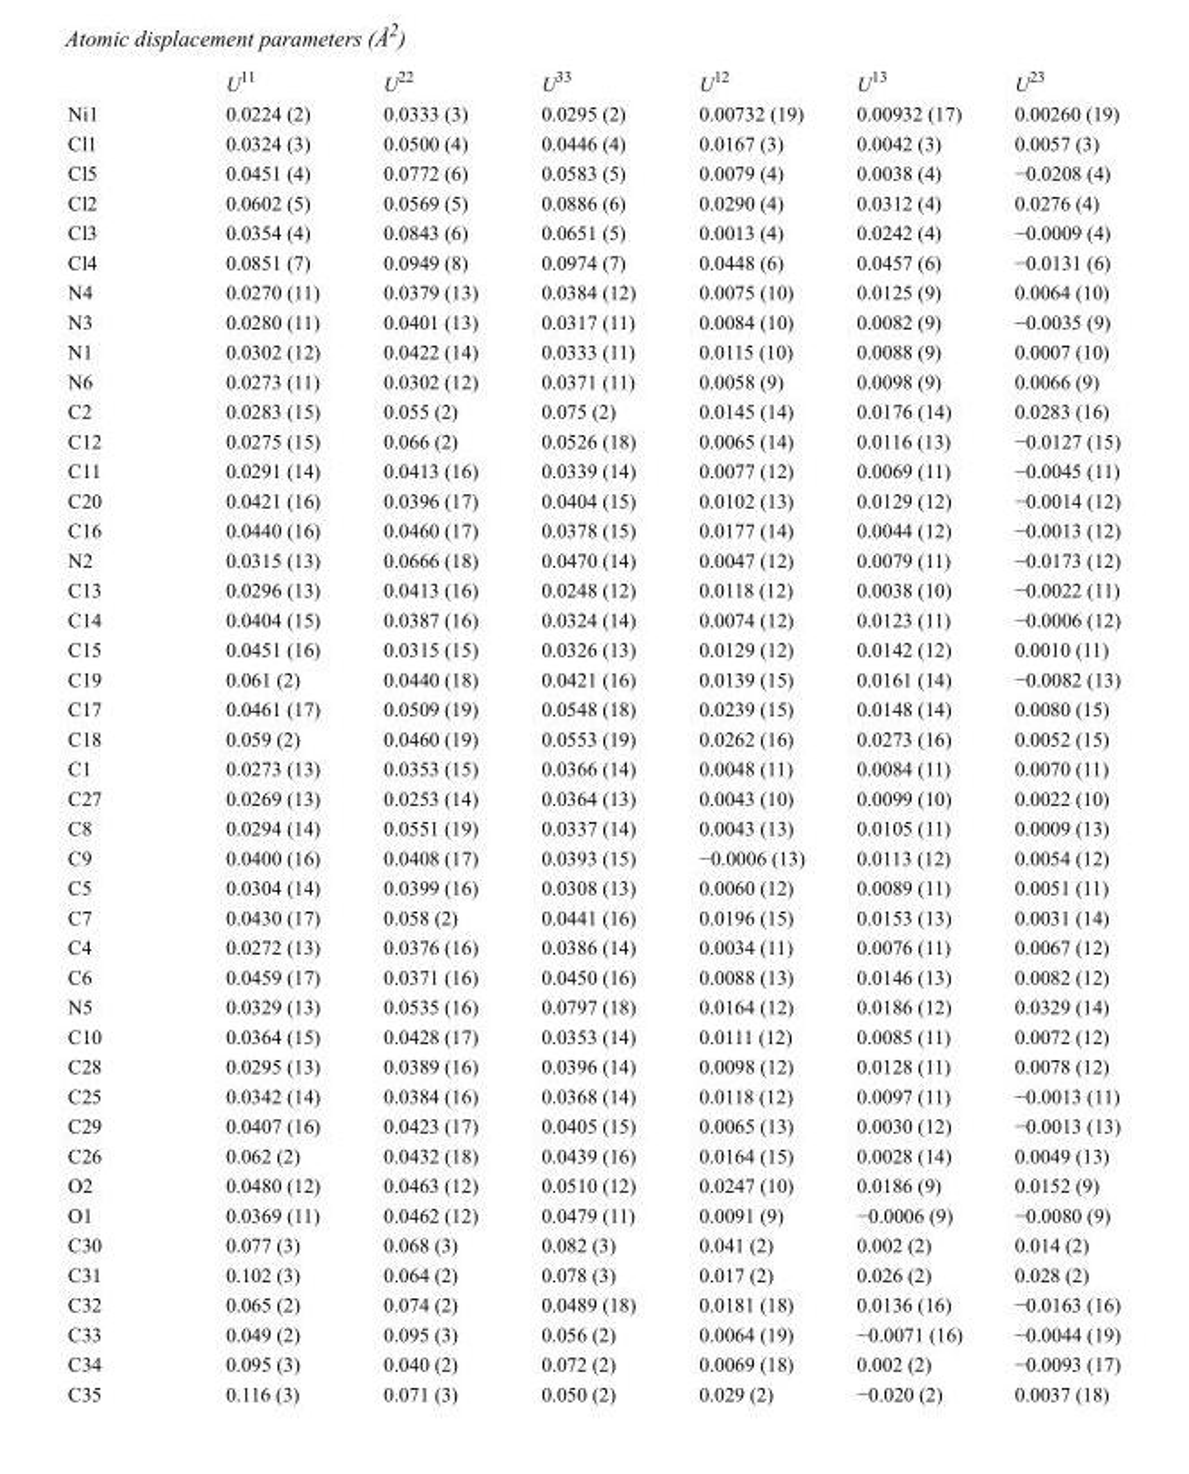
<table><thead><tr><td></td><td>U<sup>11</sup></td><td>U<sup>22</sup></td><td>U<sup>33</sup></td><td>U<sup>12</sup></td><td>U<sup>13</sup></td><td>U<sup>23</sup></td></tr></thead><tbody><tr><td>Ni1</td><td>0.0224 (2)</td><td>0.0333 (3)</td><td>0.0295 (2)</td><td>0.00732 (19)</td><td>0.00932 (17)</td><td>0.00260 (19)</td></tr><tr><td>Cl1</td><td>0.0324 (3)</td><td>0.0500 (4)</td><td>0.0446 (4)</td><td>0.0167 (3)</td><td>0.0042 (3)</td><td>0.0057 (3)</td></tr><tr><td>Cl5</td><td>0.0451 (4)</td><td>0.0772 (6)</td><td>0.0583 (5)</td><td>0.0079 (4)</td><td>0.0038 (4)</td><td>−0.0208 (4)</td></tr><tr><td>Cl2</td><td>0.0602 (5)</td><td>0.0569 (5)</td><td>0.0886 (6)</td><td>0.0290 (4)</td><td>0.0312 (4)</td><td>0.0276 (4)</td></tr><tr><td>Cl3</td><td>0.0354 (4)</td><td>0.0843 (6)</td><td>0.0651 (5)</td><td>0.0013 (4)</td><td>0.0242 (4)</td><td>−0.0009 (4)</td></tr><tr><td>Cl4</td><td>0.0851 (7)</td><td>0.0949 (8)</td><td>0.0974 (7)</td><td>0.0448 (6)</td><td>0.0457 (6)</td><td>−0.0131 (6)</td></tr><tr><td>N4</td><td>0.0270 (11)</td><td>0.0379 (13)</td><td>0.0384 (12)</td><td>0.0075 (10)</td><td>0.0125 (9)</td><td>0.0064 (10)</td></tr><tr><td>N3</td><td>0.0280 (11)</td><td>0.0401 (13)</td><td>0.0317 (11)</td><td>0.0084 (10)</td><td>0.0082 (9)</td><td>−0.0035 (9)</td></tr><tr><td>N1</td><td>0.0302 (12)</td><td>0.0422 (14)</td><td>0.0333 (11)</td><td>0.0115 (10)</td><td>0.0088 (9)</td><td>0.0007 (10)</td></tr><tr><td>N6</td><td>0.0273 (11)</td><td>0.0302 (12)</td><td>0.0371 (11)</td><td>0.0058 (9)</td><td>0.0098 (9)</td><td>0.0066 (9)</td></tr><tr><td>C2</td><td>0.0283 (15)</td><td>0.055 (2)</td><td>0.075 (2)</td><td>0.0145 (14)</td><td>0.0176 (14)</td><td>0.0283 (16)</td></tr><tr><td>C12</td><td>0.0275 (15)</td><td>0.066 (2)</td><td>0.0526 (18)</td><td>0.0065 (14)</td><td>0.0116 (13)</td><td>−0.0127 (15)</td></tr><tr><td>C11</td><td>0.0291 (14)</td><td>0.0413 (16)</td><td>0.0339 (14)</td><td>0.0077 (12)</td><td>0.0069 (11)</td><td>−0.0045 (11)</td></tr><tr><td>C20</td><td>0.0421 (16)</td><td>0.0396 (17)</td><td>0.0404 (15)</td><td>0.0102 (13)</td><td>0.0129 (12)</td><td>−0.0014 (12)</td></tr><tr><td>C16</td><td>0.0440 (16)</td><td>0.0460 (17)</td><td>0.0378 (15)</td><td>0.0177 (14)</td><td>0.0044 (12)</td><td>−0.0013 (12)</td></tr><tr><td>N2</td><td>0.0315 (13)</td><td>0.0666 (18)</td><td>0.0470 (14)</td><td>0.0047 (12)</td><td>0.0079 (11)</td><td>−0.0173 (12)</td></tr><tr><td>C13</td><td>0.0296 (13)</td><td>0.0413 (16)</td><td>0.0248 (12)</td><td>0.0118 (12)</td><td>0.0038 (10)</td><td>−0.0022 (11)</td></tr><tr><td>C14</td><td>0.0404 (15)</td><td>0.0387 (16)</td><td>0.0324 (14)</td><td>0.0074 (12)</td><td>0.0123 (11)</td><td>−0.0006 (12)</td></tr><tr><td>C15</td><td>0.0451 (16)</td><td>0.0315 (15)</td><td>0.0326 (13)</td><td>0.0129 (12)</td><td>0.0142 (12)</td><td>0.0010 (11)</td></tr><tr><td>C19</td><td>0.061 (2)</td><td>0.0440 (18)</td><td>0.0421 (16)</td><td>0.0139 (15)</td><td>0.0161 (14)</td><td>−0.0082 (13)</td></tr><tr><td>C17</td><td>0.0461 (17)</td><td>0.0509 (19)</td><td>0.0548 (18)</td><td>0.0239 (15)</td><td>0.0148 (14)</td><td>0.0080 (15)</td></tr><tr><td>C18</td><td>0.059 (2)</td><td>0.0460 (19)</td><td>0.0553 (19)</td><td>0.0262 (16)</td><td>0.0273 (16)</td><td>0.0052 (15)</td></tr><tr><td>C1</td><td>0.0273 (13)</td><td>0.0353 (15)</td><td>0.0366 (14)</td><td>0.0048 (11)</td><td>0.0084 (11)</td><td>0.0070 (11)</td></tr><tr><td>C27</td><td>0.0269 (13)</td><td>0.0253 (14)</td><td>0.0364 (13)</td><td>0.0043 (10)</td><td>0.0099 (10)</td><td>0.0022 (10)</td></tr><tr><td>C8</td><td>0.0294 (14)</td><td>0.0551 (19)</td><td>0.0337 (14)</td><td>0.0043 (13)</td><td>0.0105 (11)</td><td>0.0009 (13)</td></tr><tr><td>C9</td><td>0.0400 (16)</td><td>0.0408 (17)</td><td>0.0393 (15)</td><td>−0.0006 (13)</td><td>0.0113 (12)</td><td>0.0054 (12)</td></tr><tr><td>C5</td><td>0.0304 (14)</td><td>0.0399 (16)</td><td>0.0308 (13)</td><td>0.0060 (12)</td><td>0.0089 (11)</td><td>0.0051 (11)</td></tr><tr><td>C7</td><td>0.0430 (17)</td><td>0.058 (2)</td><td>0.0441 (16)</td><td>0.0196 (15)</td><td>0.0153 (13)</td><td>0.0031 (14)</td></tr><tr><td>C4</td><td>0.0272 (13)</td><td>0.0376 (16)</td><td>0.0386 (14)</td><td>0.0034 (11)</td><td>0.0076 (11)</td><td>0.0067 (12)</td></tr><tr><td>C6</td><td>0.0459 (17)</td><td>0.0371 (16)</td><td>0.0450 (16)</td><td>0.0088 (13)</td><td>0.0146 (13)</td><td>0.0082 (12)</td></tr><tr><td>N5</td><td>0.0329 (13)</td><td>0.0535 (16)</td><td>0.0797 (18)</td><td>0.0164 (12)</td><td>0.0186 (12)</td><td>0.0329 (14)</td></tr><tr><td>C10</td><td>0.0364 (15)</td><td>0.0428 (17)</td><td>0.0353 (14)</td><td>0.0111 (12)</td><td>0.0085 (11)</td><td>0.0072 (12)</td></tr><tr><td>C28</td><td>0.0295 (13)</td><td>0.0389 (16)</td><td>0.0396 (14)</td><td>0.0098 (12)</td><td>0.0128 (11)</td><td>0.0078 (12)</td></tr><tr><td>C25</td><td>0.0342 (14)</td><td>0.0384 (16)</td><td>0.0368 (14)</td><td>0.0118 (12)</td><td>0.0097 (11)</td><td>−0.0013 (11)</td></tr><tr><td>C29</td><td>0.0407 (16)</td><td>0.0423 (17)</td><td>0.0405 (15)</td><td>0.0065 (13)</td><td>0.0030 (12)</td><td>−0.0013 (13)</td></tr><tr><td>C26</td><td>0.062 (2)</td><td>0.0432 (18)</td><td>0.0439 (16)</td><td>0.0164 (15)</td><td>0.0028 (14)</td><td>0.0049 (13)</td></tr><tr><td>O2</td><td>0.0480 (12)</td><td>0.0463 (12)</td><td>0.0510 (12)</td><td>0.0247 (10)</td><td>0.0186 (9)</td><td>0.0152 (9)</td></tr><tr><td>O1</td><td>0.0369 (11)</td><td>0.0462 (12)</td><td>0.0479 (11)</td><td>0.0091 (9)</td><td>−0.0006 (9)</td><td>−0.0080 (9)</td></tr><tr><td>C30</td><td>0.077 (3)</td><td>0.068 (3)</td><td>0.082 (3)</td><td>0.041 (2)</td><td>0.002 (2)</td><td>0.014 (2)</td></tr><tr><td>C31</td><td>0.102 (3)</td><td>0.064 (2)</td><td>0.078 (3)</td><td>0.017 (2)</td><td>0.026 (2)</td><td>0.028 (2)</td></tr><tr><td>C32</td><td>0.065 (2)</td><td>0.074 (2)</td><td>0.0489 (18)</td><td>0.0181 (18)</td><td>0.0136 (16)</td><td>−0.0163 (16)</td></tr><tr><td>C33</td><td>0.049 (2)</td><td>0.095 (3)</td><td>0.056 (2)</td><td>0.0064 (19)</td><td>−0.0071 (16)</td><td>−0.0044 (19)</td></tr><tr><td>C34</td><td>0.095 (3)</td><td>0.040 (2)</td><td>0.072 (2)</td><td>0.0069 (18)</td><td>0.002 (2)</td><td>−0.0093 (17)</td></tr><tr><td>C35</td><td>0.116 (3)</td><td>0.071 (3)</td><td>0.050 (2)</td><td>0.029 (2)</td><td>−0.020 (2)</td><td>0.0037 (18)</td></tr></tbody></table>